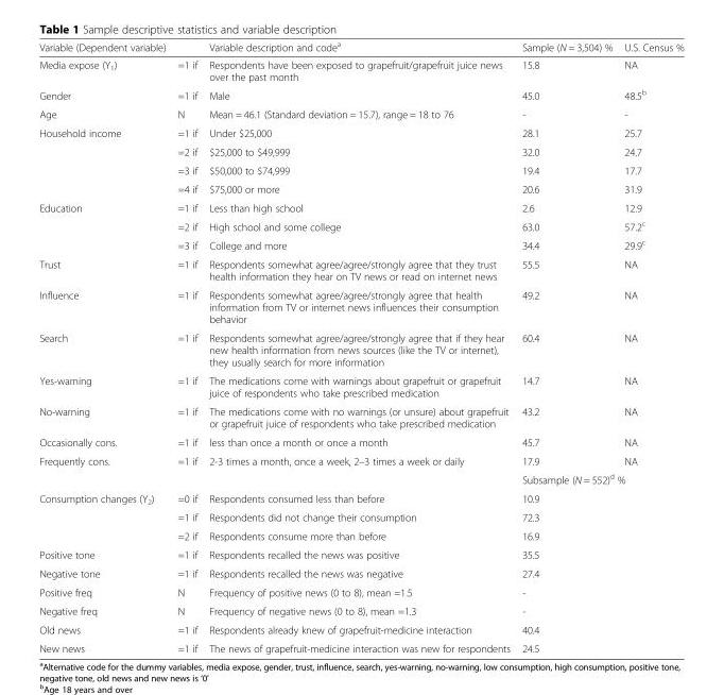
<table><thead><tr><td>Variable (Dependent variable)</td><td></td><td>Variable description and code<sup>a</sup></td><td>Sample (N = 3,504) %</td><td>U.S. Census %</td></tr></thead><tbody><tr><td>Media expose (Y<sub>1</sub>)</td><td>=1 if</td><td>Respondents have been exposed to grapefruit/grapefruit juice news over the past month</td><td>15.8</td><td>NA</td></tr><tr><td>Gender</td><td>=1 if</td><td>Male</td><td>45.0</td><td>48.5<sup>b</sup></td></tr><tr><td>Age</td><td>N</td><td>Mean = 46.1 (Standard deviation = 15.7), range = 18 to 76</td><td>-</td><td>-</td></tr><tr><td rowspan="4">Household income</td><td>=1 if</td><td>Under $25,000</td><td>28.1</td><td>25.7</td></tr><tr><td>=2 if</td><td>$25,000 to $49,999</td><td>32.0</td><td>24.7</td></tr><tr><td>=3 if</td><td>$50,000 to $74,999</td><td>19.4</td><td>17.7</td></tr><tr><td>=4 if</td><td>$75,000 or more</td><td>20.6</td><td>31.9</td></tr><tr><td rowspan="3">Education</td><td>=1 if</td><td>Less than high school</td><td>2.6</td><td>12.9</td></tr><tr><td>=2 if</td><td>High school and some college</td><td>63.0</td><td>57.2<sup>c</sup></td></tr><tr><td>=3 if</td><td>College and more</td><td>34.4</td><td>29.9<sup>c</sup></td></tr><tr><td>Trust</td><td>=1 if</td><td>Respondents somewhat agree/agree/strongly agree that they trust health information they hear on TV news or read on internet news</td><td>55.5</td><td>NA</td></tr><tr><td>Influence</td><td>=1 if</td><td>Respondents somewhat agree/agree/strongly agree that health information from TV or internet news influences their consumption behavior</td><td>49.2</td><td>NA</td></tr><tr><td>Search</td><td>=1 if</td><td>Respondents somewhat agree/agree/strongly agree that if they hear new health information from news sources (like the TV or internet), they usually search for more information</td><td>60.4</td><td>NA</td></tr><tr><td>Yes-warning</td><td>=1 if</td><td>The medications come with warnings about grapefruit or grapefruit juice of respondents who take prescribed medication</td><td>14.7</td><td>NA</td></tr><tr><td>No-warning</td><td>=1 if</td><td>The medications come with no warnings (or unsure) about grapefruit or grapefruit juice of respondents who take prescribed medication</td><td>43.2</td><td>NA</td></tr><tr><td>Occasionally cons.</td><td>=1 if</td><td>less than once a month or once a month</td><td>45.7</td><td>NA</td></tr><tr><td rowspan="2">Frequently cons.</td><td>=1 if</td><td>2-3 times a month, once a week, 2–3 times a week or daily</td><td>17.9</td><td>NA</td></tr><tr><td></td><td></td><td colspan="2">Subsample (N = 552)<sup>d</sup> %</td></tr><tr><td rowspan="3">Consumption changes (Y<sub>2</sub>)</td><td>=0 if</td><td>Respondents consumed less than before</td><td colspan="2">10.9</td></tr><tr><td>=1 if</td><td>Respondents did not change their consumption</td><td colspan="2">72.3</td></tr><tr><td>=2 if</td><td>Respondents consume more than before</td><td colspan="2">16.9</td></tr><tr><td>Positive tone</td><td>=1 if</td><td>Respondents recalled the news was positive</td><td colspan="2">35.5</td></tr><tr><td>Negative tone</td><td>=1 if</td><td>Respondents recalled the news was negative</td><td colspan="2">27.4</td></tr><tr><td>Positive freq</td><td>N</td><td>Frequency of positive news (0 to 8), mean =1.5</td><td colspan="2">-</td></tr><tr><td>Negative freq</td><td>N</td><td>Frequency of negative news (0 to 8), mean =1.3</td><td colspan="2">-</td></tr><tr><td>Old news</td><td>=1 if</td><td>Respondents already knew of grapefruit-medicine interaction</td><td colspan="2">40.4</td></tr><tr><td>New news</td><td>=1 if</td><td>The news of grapefruit-medicine interaction was new for respondents</td><td colspan="2">24.5</td></tr></tbody></table>